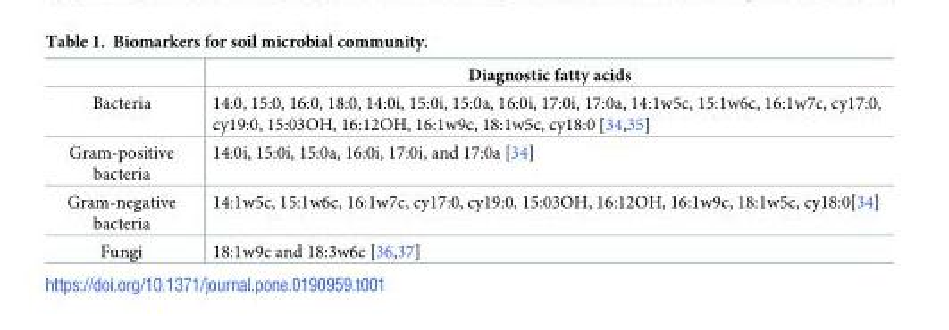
<table><thead><tr><td></td><td>Diagnostic fatty acids</td></tr></thead><tbody><tr><td>Bacteria</td><td>14:0, 15:0, 16:0, 18:0, 14:0i, 15:0i, 15:0a, 16:0i, 17:0i, 17:0a, 14:1w5c, 15:1w6c, 16:1w7c, cy17:0, cy19:0, 15:03OH, 16:12OH, 16:1w9c, 18:1w5c, cy18:0 [34,35]</td></tr><tr><td>Gram-positive bacteria</td><td>14:0i, 15:0i, 15:0a, 16:0i, 17:0i, and 17:0a [34]</td></tr><tr><td>Gram-negative bacteria</td><td>14:1w5c, 15:1w6c, 16:1w7c, cy17:0, cy19:0, 15:03OH, 16:12OH, 16:1w9c, 18:1w5c, cy18:0[34]</td></tr><tr><td>Fungi</td><td>18:1w9c and 18:3w6c [36,37]</td></tr></tbody></table>